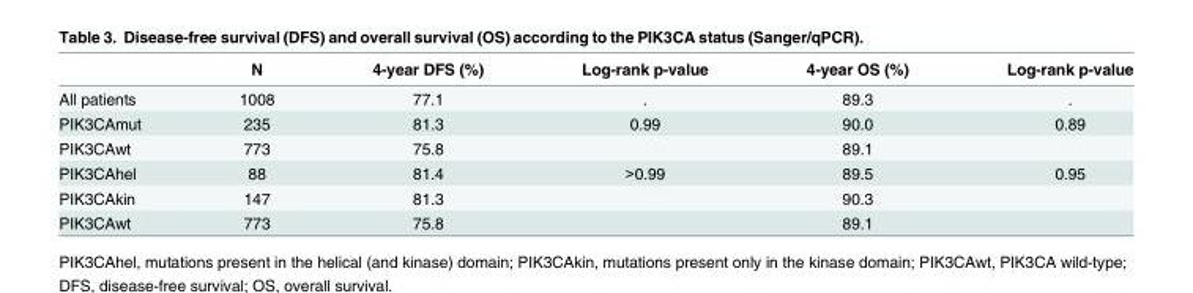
<table><thead><tr><td></td><td>N</td><td>4-year DFS (%)</td><td>Log-rank p-value</td><td>4-year OS (%)</td><td>Log-rank p-value</td></tr></thead><tbody><tr><td>All patients</td><td>1008</td><td>77.1</td><td>.</td><td>89.3</td><td>.</td></tr><tr><td>PIK3CAmut</td><td>235</td><td>81.3</td><td>0.99</td><td>90.0</td><td>0.89</td></tr><tr><td>PIK3CAwt</td><td>773</td><td>75.8</td><td></td><td>89.1</td><td></td></tr><tr><td>PIK3CAhel</td><td>88</td><td>81.4</td><td>&gt;0.99</td><td>89.5</td><td>0.95</td></tr><tr><td>PIK3CAkin</td><td>147</td><td>81.3</td><td></td><td>90.3</td><td></td></tr><tr><td>PIK3CAwt</td><td>773</td><td>75.8</td><td></td><td>89.1</td><td></td></tr></tbody></table>